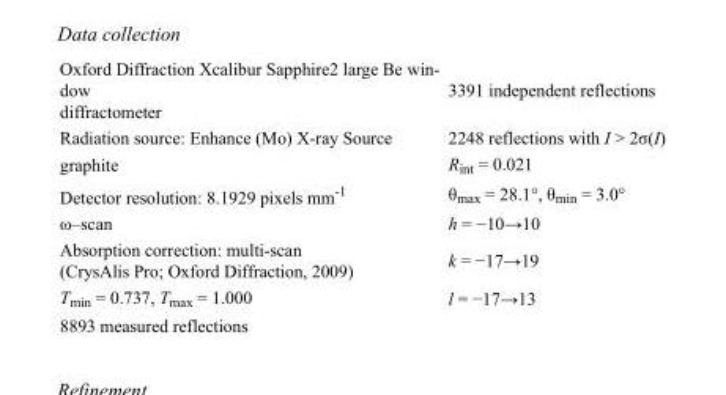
<table><tbody><tr><td>Oxford Diffraction Xcalibur Sapphire2 large Be win- dow diffractometer</td><td>3391 independent reflections</td></tr><tr><td>Radiation source: Enhance (Mo) X-ray Source</td><td>2248 reflections with I &gt; 2σ(I)</td></tr><tr><td>graphite</td><td>R<sub>int</sub> = 0.021</td></tr><tr><td>Detector resolution: 8.1929 pixels mm<sup>-1</sup></td><td>θ<sub>max</sub> = 28.1°, θ<sub>min</sub> = 3.0°</td></tr><tr><td>ω–scan</td><td>h = −10→10</td></tr><tr><td>Absorption correction: multi-scan (CrysAlis Pro; Oxford Diffraction, 2009)</td><td>k = −17→19</td></tr><tr><td>T<sub>min</sub> = 0.737, T<sub>max</sub> = 1.000</td><td>l = −17→13</td></tr><tr><td>8893 measured reflections</td><td></td></tr></tbody></table>